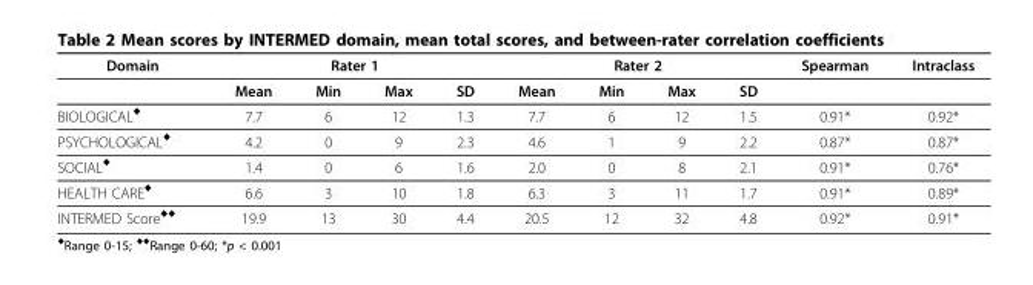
<table><thead><tr><td rowspan="2">Domain</td><td colspan="4">Rater 1</td><td colspan="4">Rater 2</td><td rowspan="2">Spearman</td><td rowspan="2">Intraclass</td></tr><tr><td>Mean</td><td>Min</td><td>Max</td><td>SD</td><td>Mean</td><td>Min</td><td>Max</td><td>SD</td></tr></thead><tbody><tr><td>BIOLOGICAL<sup>♦</sup></td><td>7.7</td><td>6</td><td>12</td><td>1.3</td><td>7.7</td><td>6</td><td>12</td><td>1.5</td><td>0.91*</td><td>0.92*</td></tr><tr><td>PSYCHOLOGICAL<sup>♦</sup></td><td>4.2</td><td>0</td><td>9</td><td>2.3</td><td>4.6</td><td>1</td><td>9</td><td>2.2</td><td>0.87*</td><td>0.87*</td></tr><tr><td>SOCIAL<sup>♦</sup></td><td>1.4</td><td>0</td><td>6</td><td>1.6</td><td>2.0</td><td>0</td><td>8</td><td>2.1</td><td>0.91*</td><td>0.76*</td></tr><tr><td>HEALTH CARE<sup>♦</sup></td><td>6.6</td><td>3</td><td>10</td><td>1.8</td><td>6.3</td><td>3</td><td>11</td><td>1.7</td><td>0.91*</td><td>0.89*</td></tr><tr><td>INTERMED Score<sup>♦♦</sup></td><td>19.9</td><td>13</td><td>30</td><td>4.4</td><td>20.5</td><td>12</td><td>32</td><td>4.8</td><td>0.92*</td><td>0.91*</td></tr></tbody></table>